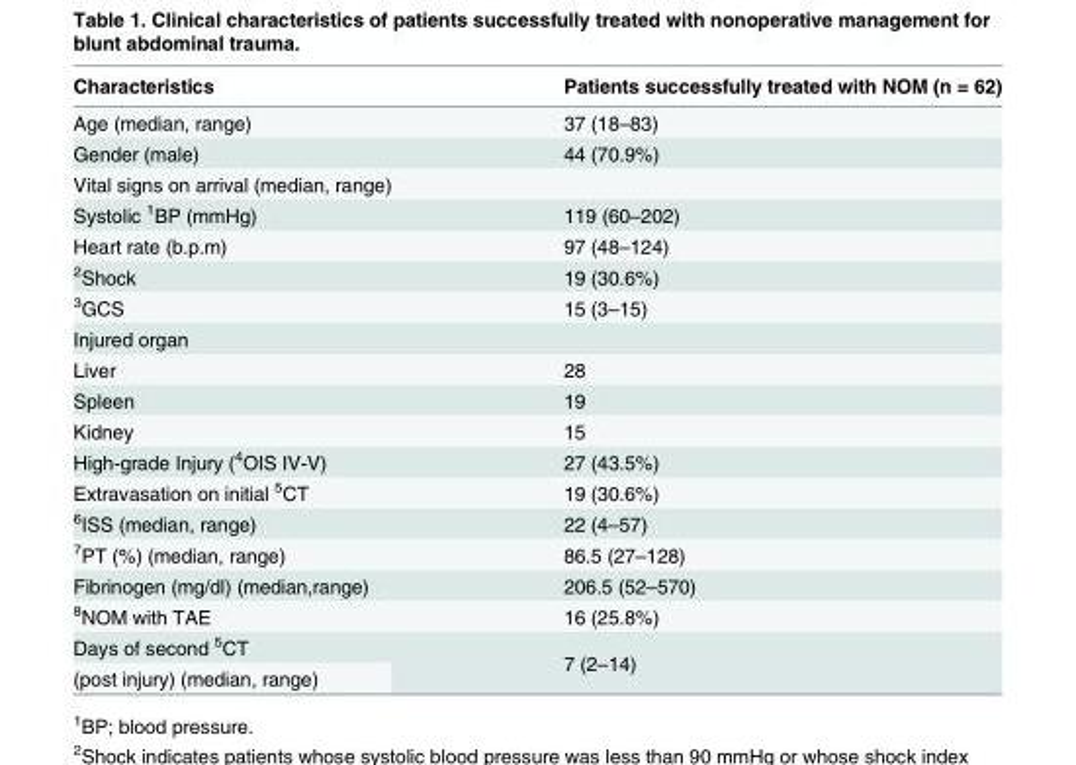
<table><thead><tr><td>Characteristics</td><td>Patients successfully treated with NOM (n = 62)</td></tr></thead><tbody><tr><td>Age (median, range)</td><td>37 (18–83)</td></tr><tr><td>Gender (male)</td><td>44 (70.9%)</td></tr><tr><td colspan="2">Vital signs on arrival (median, range)</td></tr><tr><td>Systolic <sup>1</sup>BP (mmHg)</td><td>119 (60–202)</td></tr><tr><td>Heart rate (b.p.m)</td><td>97 (48–124)</td></tr><tr><td><sup>2</sup>Shock</td><td>19 (30.6%)</td></tr><tr><td><sup>3</sup>GCS</td><td>15 (3–15)</td></tr><tr><td colspan="2">Injured organ</td></tr><tr><td>Liver</td><td>28</td></tr><tr><td>Spleen</td><td>19</td></tr><tr><td>Kidney</td><td>15</td></tr><tr><td>High-grade Injury (<sup>4</sup>OIS IV-V)</td><td>27 (43.5%)</td></tr><tr><td>Extravasation on initial <sup>5</sup>CT</td><td>19 (30.6%)</td></tr><tr><td><sup>6</sup>ISS (median, range)</td><td>22 (4–57)</td></tr><tr><td><sup>7</sup>PT (%) (median, range)</td><td>86.5 (27–128)</td></tr><tr><td>Fibrinogen (mg/dl) (median,range)</td><td>206.5 (52–570)</td></tr><tr><td><sup>8</sup>NOM with TAE</td><td>16 (25.8%)</td></tr><tr><td>Days of second <sup>5</sup>CT</td><td rowspan="2">7 (2–14)</td></tr><tr><td>(post injury) (median, range)</td></tr></tbody></table>